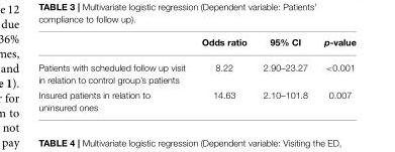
<table><thead><tr><td></td><td>Odds ratio</td><td>95% CI</td><td>p-value</td></tr></thead><tbody><tr><td>Patients with scheduled follow up visit in relation to control group’s patients</td><td>8.22</td><td>2.90–23.27</td><td>&lt;0.001</td></tr><tr><td>Insured patients in relation to uninsured ones</td><td>14.63</td><td>2.10–101.8</td><td>0.007</td></tr></tbody></table>